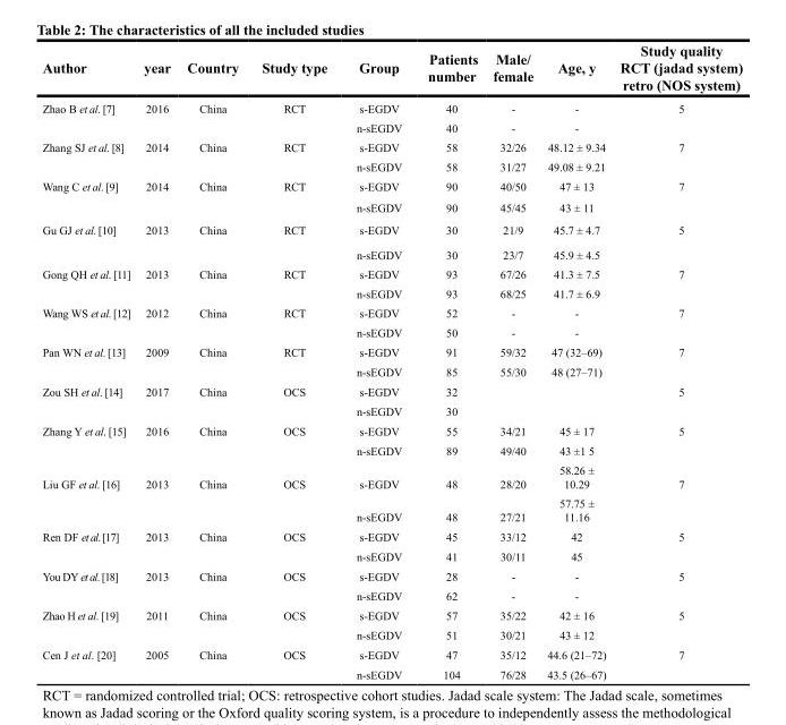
<table><thead><tr><td>Author</td><td>year</td><td>Country</td><td>Study type</td><td>Group</td><td>Patients number</td><td>Male/ female</td><td>Age, y</td><td>Study quality RCT (jadad system) retro (NOS system)</td></tr></thead><tbody><tr><td rowspan="2">Zhao B et al. [7]</td><td>2016</td><td>China</td><td>RCT</td><td>s-EGDV</td><td>40</td><td>-</td><td>-</td><td>5</td></tr><tr><td></td><td></td><td></td><td>n-sEGDV</td><td>40</td><td>-</td><td>-</td><td></td></tr><tr><td rowspan="2">Zhang SJ et al. [8]</td><td>2014</td><td>China</td><td>RCT</td><td>s-EGDV</td><td>58</td><td>32/26</td><td>48.12 ± 9.34</td><td>7</td></tr><tr><td></td><td></td><td></td><td>n-sEGDV</td><td>58</td><td>31/27</td><td>49.08 ± 9.21</td><td></td></tr><tr><td rowspan="2">Wang C et al. [9]</td><td>2014</td><td>China</td><td>RCT</td><td>s-EGDV</td><td>90</td><td>40/50</td><td>47 ± 13</td><td>7</td></tr><tr><td></td><td></td><td></td><td>n-sEGDV</td><td>90</td><td>45/45</td><td>43 ± 11</td><td></td></tr><tr><td rowspan="2">Gu GJ et al. [10]</td><td>2013</td><td>China</td><td>RCT</td><td>s-EGDV</td><td>30</td><td>21/9</td><td>45.7 ± 4.7</td><td>5</td></tr><tr><td></td><td></td><td></td><td>n-sEGDV</td><td>30</td><td>23/7</td><td>45.9 ± 4.5</td><td></td></tr><tr><td rowspan="2">Gong QH et al. [11]</td><td>2013</td><td>China</td><td>RCT</td><td>s-EGDV</td><td>93</td><td>67/26</td><td>41.3 ± 7.5</td><td>7</td></tr><tr><td></td><td></td><td></td><td>n-sEGDV</td><td>93</td><td>68/25</td><td>41.7 ± 6.9</td><td></td></tr><tr><td rowspan="2">Wang WS et al. [12]</td><td>2012</td><td>China</td><td>RCT</td><td>s-EGDV</td><td>52</td><td>-</td><td>-</td><td>7</td></tr><tr><td></td><td></td><td></td><td>n-sEGDV</td><td>50</td><td>-</td><td>-</td><td></td></tr><tr><td rowspan="2">Pan WN et al. [13]</td><td>2009</td><td>China</td><td>RCT</td><td>s-EGDV</td><td>91</td><td>59/32</td><td>47 (32–69)</td><td>7</td></tr><tr><td></td><td></td><td></td><td>n-sEGDV</td><td>85</td><td>55/30</td><td>48 (27–71)</td><td></td></tr><tr><td rowspan="2">Zou SH et al. [14]</td><td>2017</td><td>China</td><td>OCS</td><td>s-EGDV</td><td>32</td><td></td><td></td><td>5</td></tr><tr><td></td><td></td><td></td><td>n-sEGDV</td><td>30</td><td></td><td></td><td></td></tr><tr><td rowspan="2">Zhang Y et al. [15]</td><td>2016</td><td>China</td><td>OCS</td><td>s-EGDV</td><td>55</td><td>34/21</td><td>45 ± 17</td><td>5</td></tr><tr><td></td><td></td><td></td><td>n-sEGDV</td><td>89</td><td>49/40</td><td>43 ±1 5</td><td></td></tr><tr><td rowspan="2">Liu GF et al. [16]</td><td>2013</td><td>China</td><td>OCS</td><td>s-EGDV</td><td>48</td><td>28/20</td><td>58.26 ± 10.29</td><td>7</td></tr><tr><td></td><td></td><td></td><td>n-sEGDV</td><td>48</td><td>27/21</td><td>57.75 ± 11.16</td><td></td></tr><tr><td rowspan="2">Ren DF et al. [17]</td><td>2013</td><td>China</td><td>OCS</td><td>s-EGDV</td><td>45</td><td>33/12</td><td>42</td><td>5</td></tr><tr><td></td><td></td><td></td><td>n-sEGDV</td><td>41</td><td>30/11</td><td>45</td><td></td></tr><tr><td rowspan="2">You DY et al. [18]</td><td>2013</td><td>China</td><td>OCS</td><td>s-EGDV</td><td>28</td><td>-</td><td>-</td><td>5</td></tr><tr><td></td><td></td><td></td><td>n-sEGDV</td><td>62</td><td>-</td><td>-</td><td></td></tr><tr><td rowspan="2">Zhao H et al. [19]</td><td>2011</td><td>China</td><td>OCS</td><td>s-EGDV</td><td>57</td><td>35/22</td><td>42 ± 16</td><td>5</td></tr><tr><td></td><td></td><td></td><td>n-sEGDV</td><td>51</td><td>30/21</td><td>43 ± 12</td><td></td></tr><tr><td rowspan="2">Cen J et al. [20]</td><td>2005</td><td>China</td><td>OCS</td><td>s-EGDV</td><td>47</td><td>35/12</td><td>44.6 (21–72)</td><td>7</td></tr><tr><td></td><td></td><td></td><td>n-sEGDV</td><td>104</td><td>76/28</td><td>43.5 (26–67)</td><td></td></tr></tbody></table>